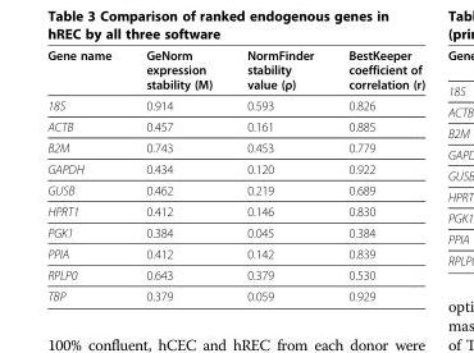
<table><thead><tr><td>Gene name</td><td>GeNorm expression stability (M)</td><td>NormFinder stability value (ρ)</td><td>BestKeeper coefficient of correlation (r)</td></tr></thead><tbody><tr><td>18S</td><td>0.914</td><td>0.593</td><td>0.826</td></tr><tr><td>ACTB</td><td>0.457</td><td>0.161</td><td>0.885</td></tr><tr><td>B2M</td><td>0.743</td><td>0.453</td><td>0.779</td></tr><tr><td>GAPDH</td><td>0.434</td><td>0.120</td><td>0.922</td></tr><tr><td>GUSB</td><td>0.462</td><td>0.219</td><td>0.689</td></tr><tr><td>HPRT1</td><td>0.412</td><td>0.146</td><td>0.830</td></tr><tr><td>PGK1</td><td>0.384</td><td>0.045</td><td>0.384</td></tr><tr><td>PPIA</td><td>0.412</td><td>0.142</td><td>0.839</td></tr><tr><td>RPLP0</td><td>0.643</td><td>0.379</td><td>0.530</td></tr><tr><td>TBP</td><td>0.379</td><td>0.059</td><td>0.929</td></tr></tbody></table>